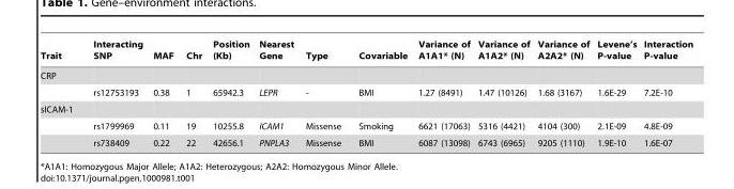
<table><thead><tr><td>Trait</td><td>Interacting SNP</td><td>MAF</td><td>Chr</td><td>Position (Kb)</td><td>Nearest Gene</td><td>Type</td><td>Covariable</td><td>Variance of A1A1* (N)</td><td>Variance of A1A2* (N)</td><td>Variance of A2A2* (N)</td><td>Levene’s P-value</td><td>Interaction P-value</td></tr></thead><tbody><tr><td colspan="13">CRP</td></tr><tr><td></td><td>rs12753193</td><td>0.38</td><td>1</td><td>65942.3</td><td>LEPR</td><td>-</td><td>BMI</td><td>1.27 (8491)</td><td>1.47 (10126)</td><td>1.68 (3167)</td><td>1.6E-29</td><td>7.2E-10</td></tr><tr><td colspan="13">sICAM-1</td></tr><tr><td></td><td>rs1799969</td><td>0.11</td><td>19</td><td>10255.8</td><td>ICAM1</td><td>Missense</td><td>Smoking</td><td>6621 (17063)</td><td>5316 (4421)</td><td>4104 (300)</td><td>2.1E-09</td><td>4.8E-09</td></tr><tr><td></td><td>rs738409</td><td>0.22</td><td>22</td><td>42656.1</td><td>PNPLA3</td><td>Missense</td><td>BMI</td><td>6087 (13098)</td><td>6743 (6965)</td><td>9205 (1110)</td><td>1.9E-10</td><td>1.6E-07</td></tr></tbody></table>